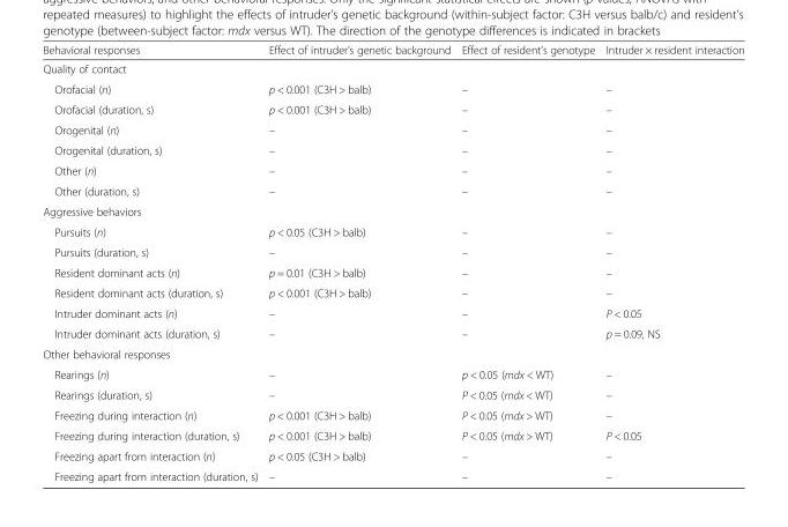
<table><thead><tr><td>Behavioral responses</td><td>Effect of intruder’s genetic background</td><td>Effect of resident’s genotype</td><td>Intruder × resident interaction</td></tr></thead><tbody><tr><td colspan="4">Quality of contact</td></tr><tr><td>Orofacial (n)</td><td>p &lt; 0.001 (C3H &gt; balb)</td><td>–</td><td>–</td></tr><tr><td>Orofacial (duration, s)</td><td>p &lt; 0.001 (C3H &gt; balb)</td><td>–</td><td>–</td></tr><tr><td>Orogenital (n)</td><td>–</td><td>–</td><td>–</td></tr><tr><td>Orogenital (duration, s)</td><td>–</td><td>–</td><td>–</td></tr><tr><td>Other (n)</td><td>–</td><td>–</td><td>–</td></tr><tr><td>Other (duration, s)</td><td>–</td><td>–</td><td>–</td></tr><tr><td colspan="4">Aggressive behaviors</td></tr><tr><td>Pursuits (n)</td><td>p &lt; 0.05 (C3H &gt; balb)</td><td>–</td><td>–</td></tr><tr><td>Pursuits (duration, s)</td><td>–</td><td>–</td><td>–</td></tr><tr><td>Resident dominant acts (n)</td><td>p = 0.01 (C3H &gt; balb)</td><td>–</td><td>–</td></tr><tr><td>Resident dominant acts (duration, s)</td><td>p &lt; 0.001 (C3H &gt; balb)</td><td>–</td><td>–</td></tr><tr><td>Intruder dominant acts (n)</td><td>–</td><td>–</td><td>P &lt; 0.05</td></tr><tr><td>Intruder dominant acts (duration, s)</td><td>–</td><td>–</td><td>p = 0.09, NS</td></tr><tr><td colspan="4">Other behavioral responses</td></tr><tr><td>Rearings (n)</td><td>–</td><td>p &lt; 0.05 (mdx &lt; WT)</td><td>–</td></tr><tr><td>Rearings (duration, s)</td><td>–</td><td>P &lt; 0.05 (mdx &lt; WT)</td><td>–</td></tr><tr><td>Freezing during interaction (n)</td><td>p &lt; 0.001 (C3H &gt; balb)</td><td>P &lt; 0.05 (mdx &gt; WT)</td><td>–</td></tr><tr><td>Freezing during interaction (duration, s)</td><td>p &lt; 0.001 (C3H &gt; balb)</td><td>P &lt; 0.05 (mdx &gt; WT)</td><td>P &lt; 0.05</td></tr><tr><td>Freezing apart from interaction (n)</td><td>p &lt; 0.05 (C3H &gt; balb)</td><td>–</td><td>–</td></tr><tr><td>Freezing apart from interaction (duration, s)</td><td>–</td><td>–</td><td>–</td></tr></tbody></table>